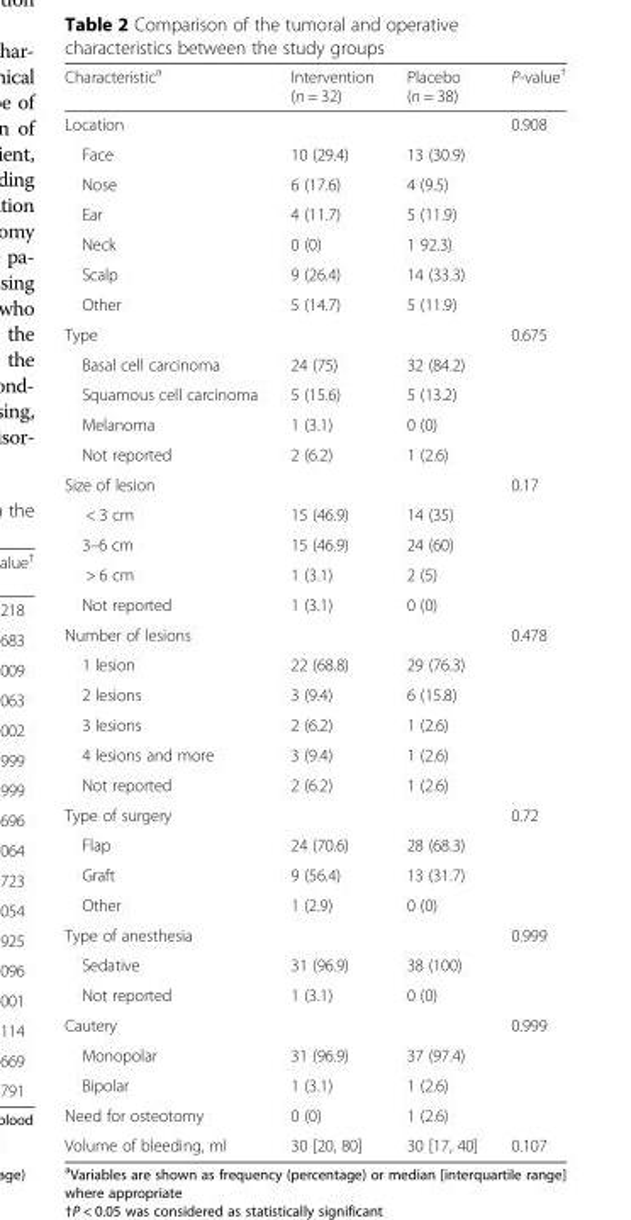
<table><thead><tr><td>Characteristic<sup>a</sup></td><td>Intervention (n = 32)</td><td>Placebo (n = 38)</td><td>P-value<sup>†</sup></td></tr></thead><tbody><tr><td>Location</td><td></td><td></td><td>0.908</td></tr><tr><td>Face</td><td>10 (29.4)</td><td>13 (30.9)</td><td></td></tr><tr><td>Nose</td><td>6 (17.6)</td><td>4 (9.5)</td><td></td></tr><tr><td>Ear</td><td>4 (11.7)</td><td>5 (11.9)</td><td></td></tr><tr><td>Neck</td><td>0 (0)</td><td>1 92.3)</td><td></td></tr><tr><td>Scalp</td><td>9 (26.4)</td><td>14 (33.3)</td><td></td></tr><tr><td>Other</td><td>5 (14.7)</td><td>5 (11.9)</td><td></td></tr><tr><td>Type</td><td></td><td></td><td>0.675</td></tr><tr><td>Basal cell carcinoma</td><td>24 (75)</td><td>32 (84.2)</td><td></td></tr><tr><td>Squamous cell carcinoma</td><td>5 (15.6)</td><td>5 (13.2)</td><td></td></tr><tr><td>Melanoma</td><td>1 (3.1)</td><td>0 (0)</td><td></td></tr><tr><td>Not reported</td><td>2 (6.2)</td><td>1 (2.6)</td><td></td></tr><tr><td>Size of lesion</td><td></td><td></td><td>0.17</td></tr><tr><td>&lt; 3 cm</td><td>15 (46.9)</td><td>14 (35)</td><td></td></tr><tr><td>3–6 cm</td><td>15 (46.9)</td><td>24 (60)</td><td></td></tr><tr><td>&gt; 6 cm</td><td>1 (3.1)</td><td>2 (5)</td><td></td></tr><tr><td>Not reported</td><td>1 (3.1)</td><td>0 (0)</td><td></td></tr><tr><td>Number of lesions</td><td></td><td></td><td>0.478</td></tr><tr><td>1 lesion</td><td>22 (68.8)</td><td>29 (76.3)</td><td></td></tr><tr><td>2 lesions</td><td>3 (9.4)</td><td>6 (15.8)</td><td></td></tr><tr><td>3 lesions</td><td>2 (6.2)</td><td>1 (2.6)</td><td></td></tr><tr><td>4 lesions and more</td><td>3 (9.4)</td><td>1 (2.6)</td><td></td></tr><tr><td>Not reported</td><td>2 (6.2)</td><td>1 (2.6)</td><td></td></tr><tr><td>Type of surgery</td><td></td><td></td><td>0.72</td></tr><tr><td>Flap</td><td>24 (70.6)</td><td>28 (68.3)</td><td></td></tr><tr><td>Graft</td><td>9 (56.4)</td><td>13 (31.7)</td><td></td></tr><tr><td>Other</td><td>1 (2.9)</td><td>0 (0)</td><td></td></tr><tr><td>Type of anesthesia</td><td></td><td></td><td>0.999</td></tr><tr><td>Sedative</td><td>31 (96.9)</td><td>38 (100)</td><td></td></tr><tr><td>Not reported</td><td>1 (3.1)</td><td>0 (0)</td><td></td></tr><tr><td>Cautery</td><td></td><td></td><td>0.999</td></tr><tr><td>Monopolar</td><td>31 (96.9)</td><td>37 (97.4)</td><td></td></tr><tr><td>Bipolar</td><td>1 (3.1)</td><td>1 (2.6)</td><td></td></tr><tr><td>Need for osteotomy</td><td>0 (0)</td><td>1 (2.6)</td><td></td></tr><tr><td>Volume of bleeding, ml</td><td>30 [20, 80]</td><td>30 [17, 40]</td><td>0.107</td></tr></tbody></table>